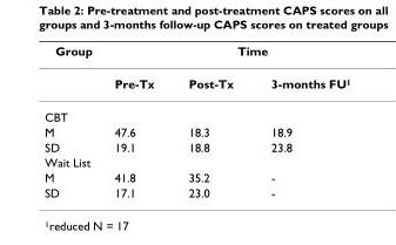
<table><thead><tr><td rowspan="2">Group</td><td colspan="3">Time</td></tr><tr><td>Pre-Tx</td><td>Post-Tx</td><td>3-months FU<sup>1</sup></td></tr></thead><tbody><tr><td colspan="4">CBT</td></tr><tr><td>M</td><td>47.6</td><td>18.3</td><td>18.9</td></tr><tr><td>SD</td><td>19.1</td><td>18.8</td><td>23.8</td></tr><tr><td colspan="4">Wait List</td></tr><tr><td>M</td><td>41.8</td><td>35.2</td><td>-</td></tr><tr><td>SD</td><td>17.1</td><td>23.0</td><td>-</td></tr></tbody></table>